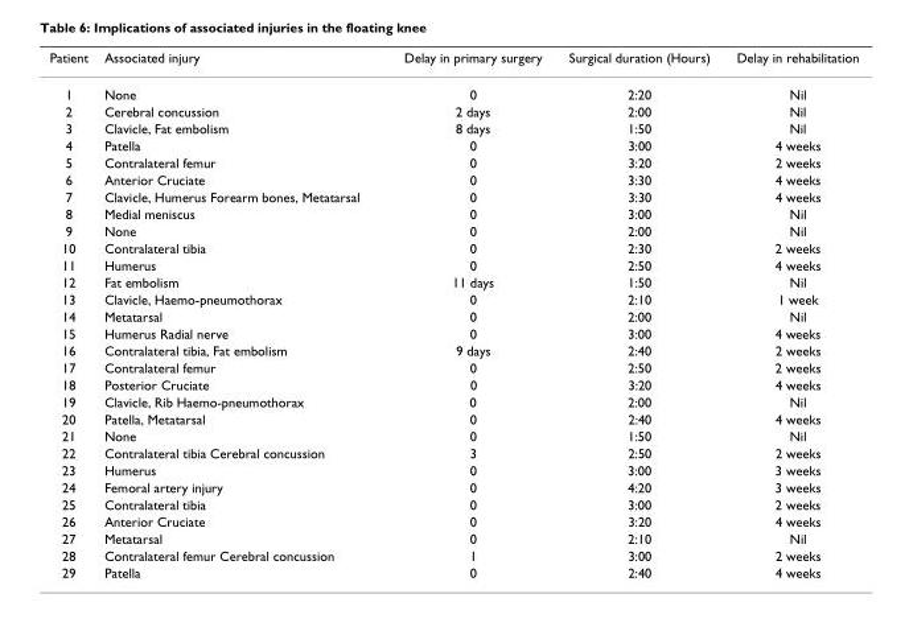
<table><thead><tr><td>Patient</td><td>Associated injury</td><td>Delay in primary surgery</td><td>Surgical duration (Hours)</td><td>Delay in rehabilitation</td></tr></thead><tbody><tr><td>1</td><td>None</td><td>0</td><td>2:20</td><td>Nil</td></tr><tr><td>2</td><td>Cerebral concussion</td><td>2 days</td><td>2:00</td><td>Nil</td></tr><tr><td>3</td><td>Clavicle, Fat embolism</td><td>8 days</td><td>1:50</td><td>Nil</td></tr><tr><td>4</td><td>Patella</td><td>0</td><td>3:00</td><td>4 weeks</td></tr><tr><td>5</td><td>Contralateral femur</td><td>0</td><td>3:20</td><td>2 weeks</td></tr><tr><td>6</td><td>Anterior Cruciate</td><td>0</td><td>3:30</td><td>4 weeks</td></tr><tr><td>7</td><td>Clavicle, Humerus Forearm bones, Metatarsal</td><td>0</td><td>3:30</td><td>4 weeks</td></tr><tr><td>8</td><td>Medial meniscus</td><td>0</td><td>3:00</td><td>Nil</td></tr><tr><td>9</td><td>None</td><td>0</td><td>2:00</td><td>Nil</td></tr><tr><td>10</td><td>Contralateral tibia</td><td>0</td><td>2:30</td><td>2 weeks</td></tr><tr><td>11</td><td>Humerus</td><td>0</td><td>2:50</td><td>4 weeks</td></tr><tr><td>12</td><td>Fat embolism</td><td>11 days</td><td>1:50</td><td>Nil</td></tr><tr><td>13</td><td>Clavicle, Haemo-pneumothorax</td><td>0</td><td>2:10</td><td>1 week</td></tr><tr><td>14</td><td>Metatarsal</td><td>0</td><td>2:00</td><td>Nil</td></tr><tr><td>15</td><td>Humerus Radial nerve</td><td>0</td><td>3:00</td><td>4 weeks</td></tr><tr><td>16</td><td>Contralateral tibia, Fat embolism</td><td>9 days</td><td>2:40</td><td>2 weeks</td></tr><tr><td>17</td><td>Contralateral femur</td><td>0</td><td>2:50</td><td>2 weeks</td></tr><tr><td>18</td><td>Posterior Cruciate</td><td>0</td><td>3:20</td><td>4 weeks</td></tr><tr><td>19</td><td>Clavicle, Rib Haemo-pneumothorax</td><td>0</td><td>2:00</td><td>Nil</td></tr><tr><td>20</td><td>Patella, Metatarsal</td><td>0</td><td>2:40</td><td>4 weeks</td></tr><tr><td>21</td><td>None</td><td>0</td><td>1:50</td><td>Nil</td></tr><tr><td>22</td><td>Contralateral tibia Cerebral concussion</td><td>3</td><td>2:50</td><td>2 weeks</td></tr><tr><td>23</td><td>Humerus</td><td>0</td><td>3:00</td><td>3 weeks</td></tr><tr><td>24</td><td>Femoral artery injury</td><td>0</td><td>4:20</td><td>3 weeks</td></tr><tr><td>25</td><td>Contralateral tibia</td><td>0</td><td>3:00</td><td>2 weeks</td></tr><tr><td>26</td><td>Anterior Cruciate</td><td>0</td><td>3:20</td><td>4 weeks</td></tr><tr><td>27</td><td>Metatarsal</td><td>0</td><td>2:10</td><td>Nil</td></tr><tr><td>28</td><td>Contralateral femur Cerebral concussion</td><td>1</td><td>3:00</td><td>2 weeks</td></tr><tr><td>29</td><td>Patella</td><td>0</td><td>2:40</td><td>4 weeks</td></tr></tbody></table>